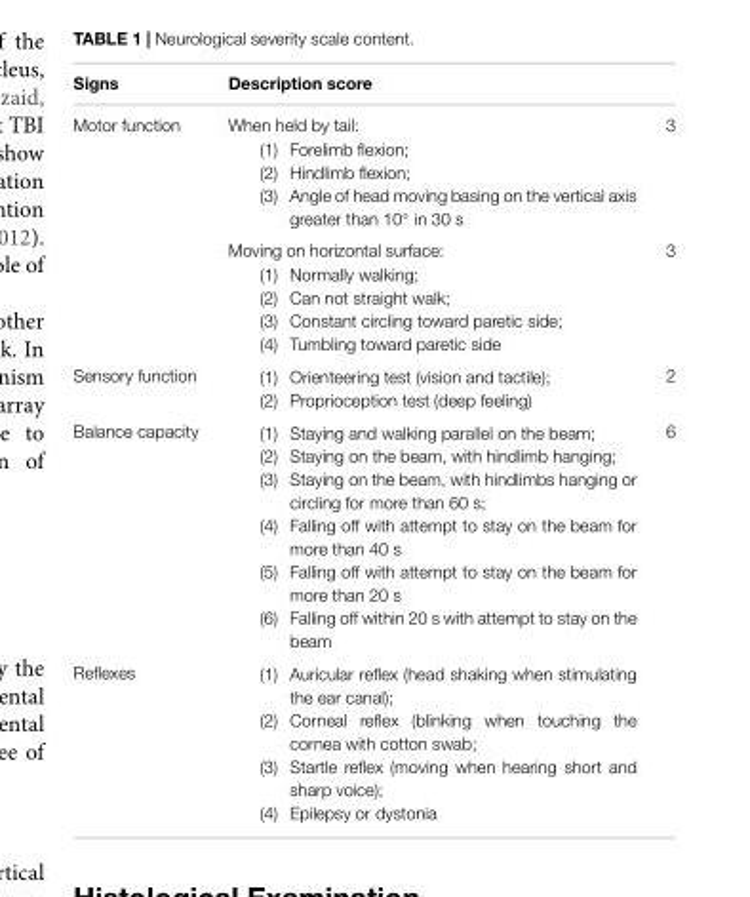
<table><thead><tr><td>Signs</td><td>Description score</td><td></td></tr></thead><tbody><tr><td rowspan="2">Motor function</td><td>When held by tail: (1) Forelimb flexion; (2) Hindlimb flexion; (3) Angle of head moving basing on the vertical axis greater than 10◦ in 30 s</td><td>3</td></tr><tr><td>Moving on horizontal surface: (1) Normally walking; (2) Can not straight walk; (3) Constant circling toward paretic side; (4) Tumbling toward paretic side</td><td>3</td></tr><tr><td>Sensory function</td><td>(1) Orienteering test (vision and tactile); (2) Proprioception test (deep feeling)</td><td>2</td></tr><tr><td>Balance capacity</td><td>(1) Staying and walking parallel on the beam; (2) Staying on the beam, with hindlimb hanging; (3) Staying on the beam, with hindlimbs hanging or circling for more than 60 s; (4) Falling off with attempt to stay on the beam for more than 40 s (5) Falling off with attempt to stay on the beam for more than 20 s (6) Falling off within 20 s with attempt to stay on the beam</td><td>6</td></tr><tr><td>Reflexes</td><td>(1) Auricular reflex (head shaking when stimulating the ear canal); (2) Corneal reflex (blinking when touching the cornea with cotton swab; (3) Startle reflex (moving when hearing short and sharp voice); (4) Epilepsy or dystonia</td><td></td></tr></tbody></table>